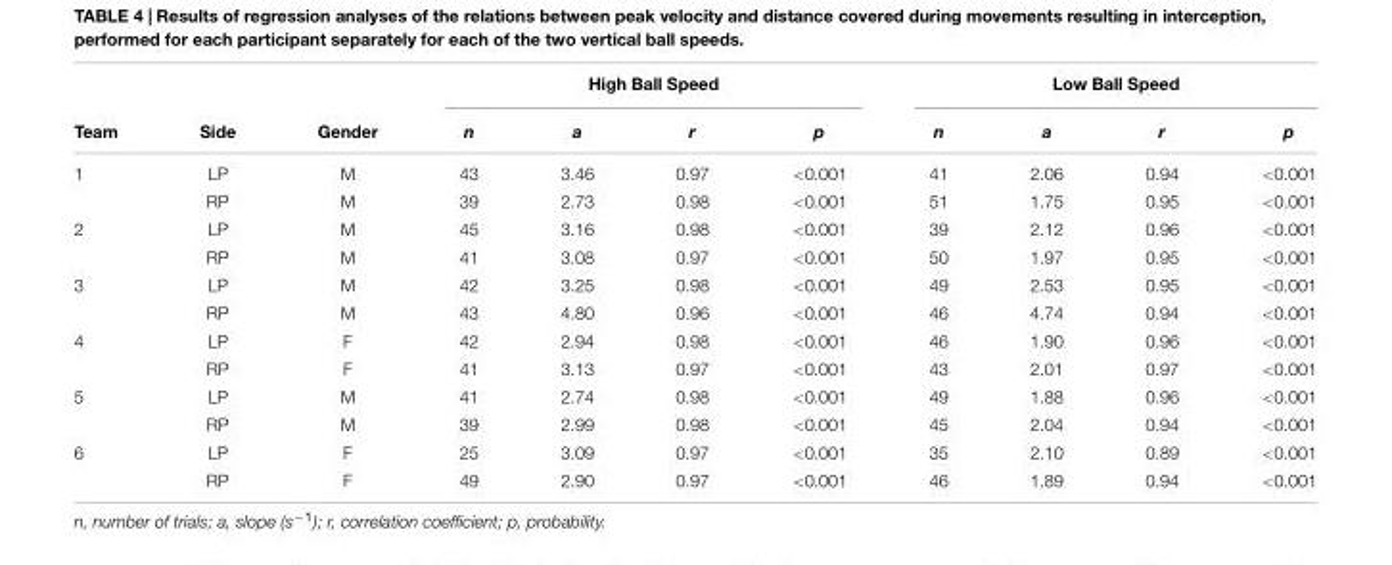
<table><thead><tr><td rowspan="2">Team</td><td rowspan="2">Side</td><td rowspan="2">Gender</td><td colspan="4">High Ball Speed</td><td colspan="4">Low Ball Speed</td></tr><tr><td>n</td><td>a</td><td>r</td><td>p</td><td>n</td><td>a</td><td>r</td><td>p</td></tr></thead><tbody><tr><td rowspan="2">1</td><td>LP</td><td>M</td><td>43</td><td>3.46</td><td>0.97</td><td>&lt;0.001</td><td>41</td><td>2.06</td><td>0.94</td><td>&lt;0.001</td></tr><tr><td>RP</td><td>M</td><td>39</td><td>2.73</td><td>0.98</td><td>&lt;0.001</td><td>51</td><td>1.75</td><td>0.95</td><td>&lt;0.001</td></tr><tr><td rowspan="2">2</td><td>LP</td><td>M</td><td>45</td><td>3.16</td><td>0.98</td><td>&lt;0.001</td><td>39</td><td>2.12</td><td>0.96</td><td>&lt;0.001</td></tr><tr><td>RP</td><td>M</td><td>41</td><td>3.08</td><td>0.97</td><td>&lt;0.001</td><td>50</td><td>1.97</td><td>0.95</td><td>&lt;0.001</td></tr><tr><td rowspan="2">3</td><td>LP</td><td>M</td><td>42</td><td>3.25</td><td>0.98</td><td>&lt;0.001</td><td>49</td><td>2.53</td><td>0.95</td><td>&lt;0.001</td></tr><tr><td>RP</td><td>M</td><td>43</td><td>4.80</td><td>0.96</td><td>&lt;0.001</td><td>46</td><td>4.74</td><td>0.94</td><td>&lt;0.001</td></tr><tr><td rowspan="2">4</td><td>LP</td><td>F</td><td>42</td><td>2.94</td><td>0.98</td><td>&lt;0.001</td><td>46</td><td>1.90</td><td>0.96</td><td>&lt;0.001</td></tr><tr><td>RP</td><td>F</td><td>41</td><td>3.13</td><td>0.97</td><td>&lt;0.001</td><td>43</td><td>2.01</td><td>0.97</td><td>&lt;0.001</td></tr><tr><td rowspan="2">5</td><td>LP</td><td>M</td><td>41</td><td>2.74</td><td>0.98</td><td>&lt;0.001</td><td>49</td><td>1.88</td><td>0.96</td><td>&lt;0.001</td></tr><tr><td>RP</td><td>M</td><td>39</td><td>2.99</td><td>0.98</td><td>&lt;0.001</td><td>45</td><td>2.04</td><td>0.94</td><td>&lt;0.001</td></tr><tr><td rowspan="2">6</td><td>LP</td><td>F</td><td>25</td><td>3.09</td><td>0.97</td><td>&lt;0.001</td><td>35</td><td>2.10</td><td>0.89</td><td>&lt;0.001</td></tr><tr><td>RP</td><td>F</td><td>49</td><td>2.90</td><td>0.97</td><td>&lt;0.001</td><td>46</td><td>1.89</td><td>0.94</td><td>&lt;0.001</td></tr></tbody></table>